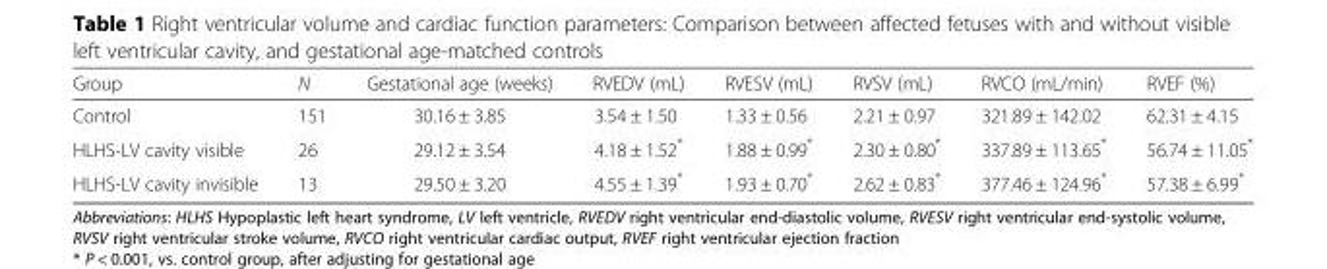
<table><thead><tr><td>Group</td><td>N</td><td>Gestational age (weeks)</td><td>RVEDV (mL)</td><td>RVESV (mL)</td><td>RVSV (mL)</td><td>RVCO (mL/min)</td><td>RVEF (%)</td></tr></thead><tbody><tr><td>Control</td><td>151</td><td>30.16 ± 3.85</td><td>3.54 ± 1.50</td><td>1.33 ± 0.56</td><td>2.21 ± 0.97</td><td>321.89 ± 142.02</td><td>62.31 ± 4.15</td></tr><tr><td>HLHS-LV cavity visible</td><td>26</td><td>29.12 ± 3.54</td><td>4.18 ± 1.52*</td><td>1.88 ± 0.99*</td><td>2.30 ± 0.80*</td><td>337.89 ± 113.65*</td><td>56.74 ± 11.05*</td></tr><tr><td>HLHS-LV cavity invisible</td><td>13</td><td>29.50 ± 3.20</td><td>4.55 ± 1.39*</td><td>1.93 ± 0.70*</td><td>2.62 ± 0.83*</td><td>377.46 ± 124.96*</td><td>57.38 ± 6.99*</td></tr></tbody></table>